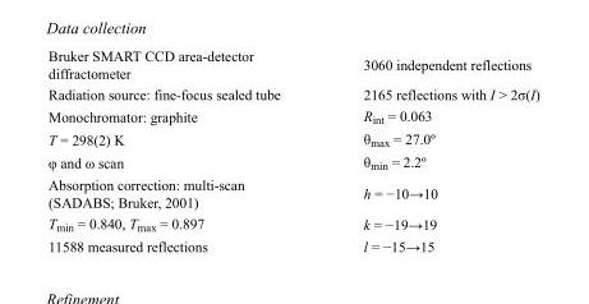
<table><tbody><tr><td>Bruker SMART CCD area-detector diffractometer</td><td>3060 independent reflections</td></tr><tr><td>Radiation source: fine-focus sealed tube</td><td>2165 reflections with I &gt; 2σ(I)</td></tr><tr><td>Monochromator: graphite</td><td>R<sub>int</sub> = 0.063</td></tr><tr><td>T = 298(2) K</td><td>θ<sub>max</sub> = 27.0º</td></tr><tr><td>φ and ω scan</td><td>θ<sub>min</sub> = 2.2º</td></tr><tr><td>Absorption correction: multi-scan (SADABS; Bruker, 2001)</td><td>h = −10→10</td></tr><tr><td>T<sub>min</sub> = 0.840, T<sub>max</sub> = 0.897</td><td>k = −19→19</td></tr><tr><td>11588 measured reflections</td><td>l = −15→15</td></tr></tbody></table>